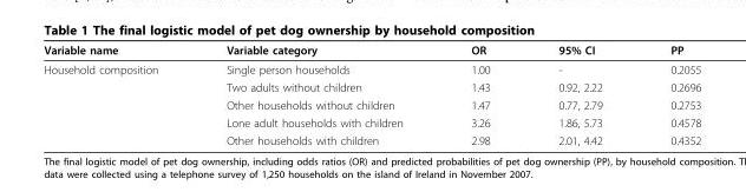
<table><thead><tr><td>Variable name</td><td>Variable category</td><td>OR</td><td>95% CI</td><td>PP</td></tr></thead><tbody><tr><td rowspan="5">Household composition</td><td>Single person households</td><td>1.00</td><td>-</td><td>0.2055</td></tr><tr><td>Two adults without children</td><td>1.43</td><td>0.92, 2.22</td><td>0.2696</td></tr><tr><td>Other households without children</td><td>1.47</td><td>0.77, 2.79</td><td>0.2753</td></tr><tr><td>Lone adult households with children</td><td>3.26</td><td>1.86, 5.73</td><td>0.4578</td></tr><tr><td>Other households with children</td><td>2.98</td><td>2.01, 4.42</td><td>0.4352</td></tr></tbody></table>